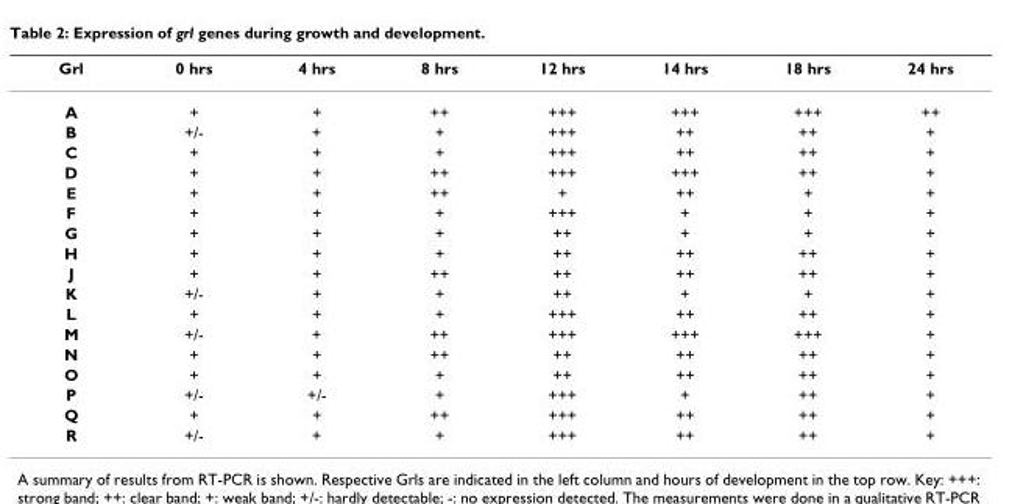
<table><thead><tr><td>Grl</td><td>0 hrs</td><td>4 hrs</td><td>8 hrs</td><td>12 hrs</td><td>14 hrs</td><td>18 hrs</td><td>24 hrs</td></tr></thead><tbody><tr><td>A</td><td>+</td><td>+</td><td>++</td><td>+++</td><td>+++</td><td>+++</td><td>++</td></tr><tr><td>B</td><td>+/-</td><td>+</td><td>+</td><td>+++</td><td>++</td><td>++</td><td>+</td></tr><tr><td>C</td><td>+</td><td>+</td><td>+</td><td>+++</td><td>++</td><td>++</td><td>+</td></tr><tr><td>D</td><td>+</td><td>+</td><td>++</td><td>+++</td><td>+++</td><td>++</td><td>+</td></tr><tr><td>E</td><td>+</td><td>+</td><td>++</td><td>+</td><td>++</td><td>+</td><td>+</td></tr><tr><td>F</td><td>+</td><td>+</td><td>+</td><td>+++</td><td>+</td><td>+</td><td>+</td></tr><tr><td>G</td><td>+</td><td>+</td><td>+</td><td>++</td><td>+</td><td>+</td><td>+</td></tr><tr><td>H</td><td>+</td><td>+</td><td>+</td><td>++</td><td>++</td><td>++</td><td>+</td></tr><tr><td>J</td><td>+</td><td>+</td><td>++</td><td>++</td><td>++</td><td>++</td><td>+</td></tr><tr><td>K</td><td>+/-</td><td>+</td><td>+</td><td>++</td><td>+</td><td>+</td><td>+</td></tr><tr><td>L</td><td>+</td><td>+</td><td>+</td><td>+++</td><td>++</td><td>++</td><td>+</td></tr><tr><td>M</td><td>+/-</td><td>+</td><td>++</td><td>+++</td><td>+++</td><td>+++</td><td>+</td></tr><tr><td>N</td><td>+</td><td>+</td><td>++</td><td>++</td><td>++</td><td>++</td><td>+</td></tr><tr><td>O</td><td>+</td><td>+</td><td>+</td><td>++</td><td>++</td><td>++</td><td>+</td></tr><tr><td>P</td><td>+/-</td><td>+/-</td><td>+</td><td>+++</td><td>+</td><td>++</td><td>+</td></tr><tr><td>Q</td><td>+</td><td>+</td><td>++</td><td>+++</td><td>++</td><td>++</td><td>+</td></tr><tr><td>R</td><td>+/-</td><td>+</td><td>+</td><td>+++</td><td>++</td><td>++</td><td>+</td></tr></tbody></table>